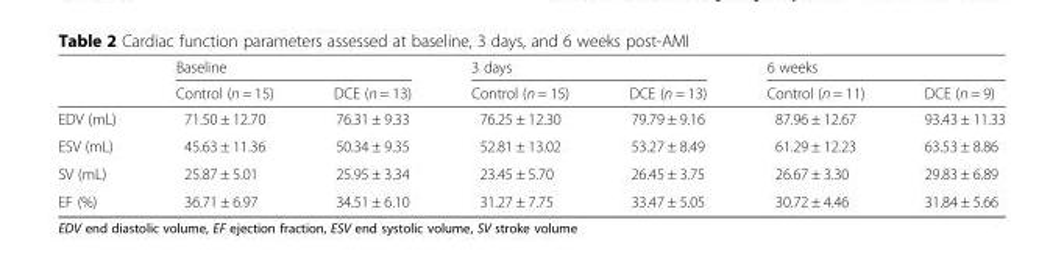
<table><thead><tr><td rowspan="2"></td><td colspan="2">Baseline</td><td colspan="2">3 days</td><td colspan="2">6 weeks</td></tr><tr><td>Control (n = 15)</td><td>DCE (n = 13)</td><td>Control (n = 15)</td><td>DCE (n = 13)</td><td>Control (n = 11)</td><td>DCE (n = 9)</td></tr></thead><tbody><tr><td>EDV (mL)</td><td>71.50 ± 12.70</td><td>76.31 ± 9.33</td><td>76.25 ± 12.30</td><td>79.79 ± 9.16</td><td>87.96 ± 12.67</td><td>93.43 ± 11.33</td></tr><tr><td>ESV (mL)</td><td>45.63 ± 11.36</td><td>50.34 ± 9.35</td><td>52.81 ± 13.02</td><td>53.27 ± 8.49</td><td>61.29 ± 12.23</td><td>63.53 ± 8.86</td></tr><tr><td>SV (mL)</td><td>25.87 ± 5.01</td><td>25.95 ± 3.34</td><td>23.45 ± 5.70</td><td>26.45 ± 3.75</td><td>26.67 ± 3.30</td><td>29.83 ± 6.89</td></tr><tr><td>EF (%)</td><td>36.71 ± 6.97</td><td>34.51 ± 6.10</td><td>31.27 ± 7.75</td><td>33.47 ± 5.05</td><td>30.72 ± 4.46</td><td>31.84 ± 5.66</td></tr></tbody></table>